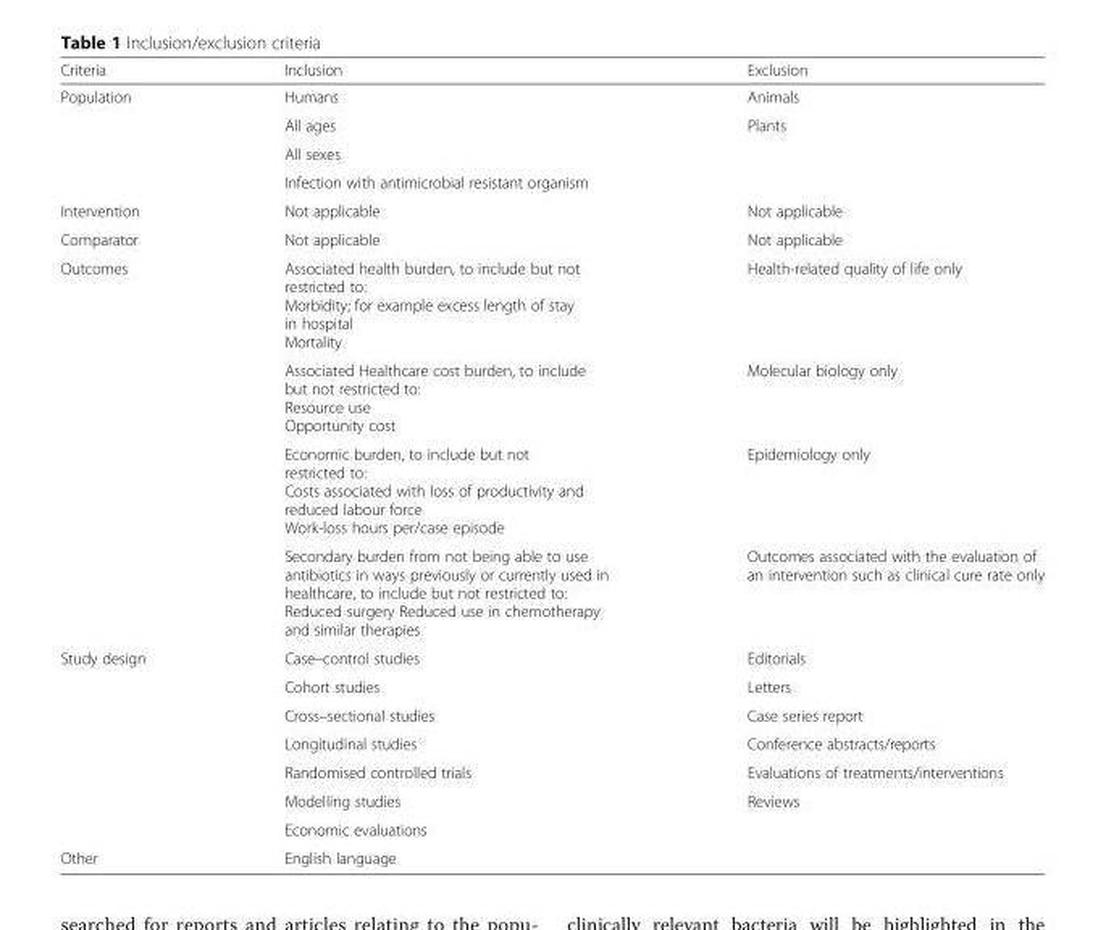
<table><thead><tr><td>Criteria</td><td>Inclusion</td><td>Exclusion</td></tr></thead><tbody><tr><td rowspan="4">Population</td><td>Humans</td><td>Animals</td></tr><tr><td>All ages</td><td>Plants</td></tr><tr><td>All sexes</td><td></td></tr><tr><td>Infection with antimicrobial resistant organism</td><td></td></tr><tr><td>Intervention</td><td>Not applicable</td><td>Not applicable</td></tr><tr><td>Comparator</td><td>Not applicable</td><td>Not applicable</td></tr><tr><td rowspan="4">Outcomes</td><td>Associated health burden, to include but not restricted to: Morbidity; for example excess length of stay in hospital Mortality</td><td>Health-related quality of life only</td></tr><tr><td>Associated Healthcare cost burden, to include but not restricted to: Resource use Opportunity cost</td><td>Molecular biology only</td></tr><tr><td>Economic burden, to include but not restricted to: Costs associated with loss of productivity and reduced labour force Work-loss hours per/case episode</td><td>Epidemiology only</td></tr><tr><td>Secondary burden from not being able to use antibiotics in ways previously or currently used in healthcare, to include but not restricted to: Reduced surgery Reduced use in chemotherapy and similar therapies</td><td>Outcomes associated with the evaluation of an intervention such as clinical cure rate only</td></tr><tr><td rowspan="7">Study design</td><td>Case–control studies</td><td>Editorials</td></tr><tr><td>Cohort studies</td><td>Letters</td></tr><tr><td>Cross–sectional studies</td><td>Case series report</td></tr><tr><td>Longitudinal studies</td><td>Conference abstracts/reports</td></tr><tr><td>Randomised controlled trials</td><td>Evaluations of treatments/interventions</td></tr><tr><td>Modelling studies</td><td>Reviews</td></tr><tr><td>Economic evaluations</td><td></td></tr><tr><td>Other</td><td>English language</td><td></td></tr></tbody></table>